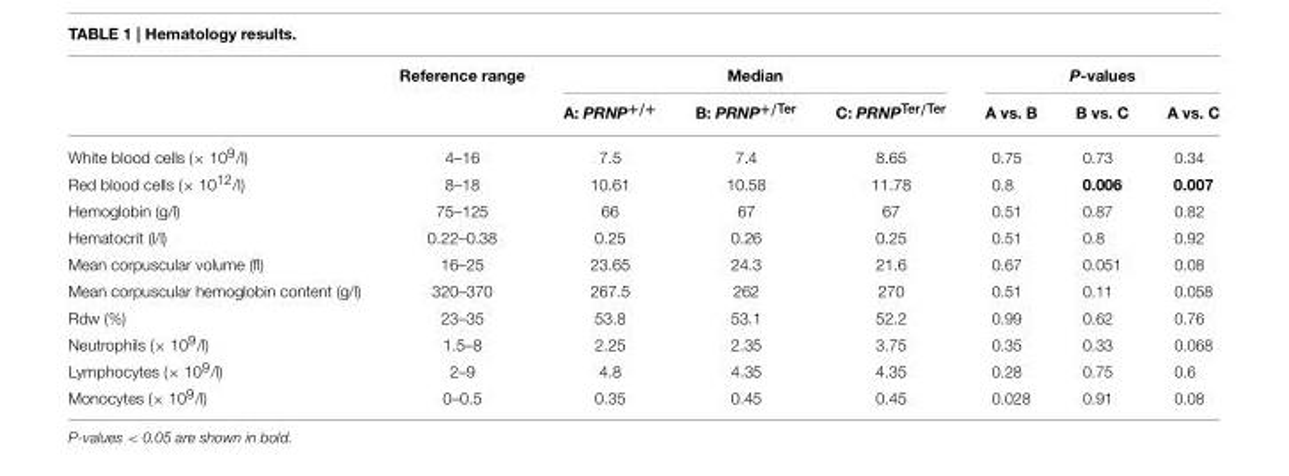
<table><thead><tr><td rowspan="2"></td><td rowspan="2">Reference range</td><td colspan="3">Median</td><td colspan="3">P-values</td></tr><tr><td>A: PRNP<sup>+/+</sup></td><td>B: PRNP<sup>+/Ter</sup></td><td>C: PRNP<sup>Ter/Ter</sup></td><td>A vs. B</td><td>B vs. C</td><td>A vs. C</td></tr></thead><tbody><tr><td>White blood cells (× 10<sup>9</sup>/l)</td><td>4–16</td><td>7.5</td><td>7.4</td><td>8.65</td><td>0.75</td><td>0.73</td><td>0.34</td></tr><tr><td>Red blood cells (× 10<sup>12</sup>/l)</td><td>8–18</td><td>10.61</td><td>10.58</td><td>11.78</td><td>0.8</td><td>0.006</td><td>0.007</td></tr><tr><td>Hemoglobin (g/l)</td><td>75–125</td><td>66</td><td>67</td><td>67</td><td>0.51</td><td>0.87</td><td>0.82</td></tr><tr><td>Hematocrit (l/l)</td><td>0.22–0.38</td><td>0.25</td><td>0.26</td><td>0.25</td><td>0.51</td><td>0.8</td><td>0.92</td></tr><tr><td>Mean corpuscular volume (fl)</td><td>16–25</td><td>23.65</td><td>24.3</td><td>21.6</td><td>0.67</td><td>0.051</td><td>0.08</td></tr><tr><td>Mean corpuscular hemoglobin content (g/l)</td><td>320–370</td><td>267.5</td><td>262</td><td>270</td><td>0.51</td><td>0.11</td><td>0.058</td></tr><tr><td>Rdw (%)</td><td>23–35</td><td>53.8</td><td>53.1</td><td>52.2</td><td>0.99</td><td>0.62</td><td>0.76</td></tr><tr><td>Neutrophils (× 10<sup>9</sup>/l)</td><td>1.5–8</td><td>2.25</td><td>2.35</td><td>3.75</td><td>0.35</td><td>0.33</td><td>0.068</td></tr><tr><td>Lymphocytes (× 10<sup>9</sup>/l)</td><td>2–9</td><td>4.8</td><td>4.35</td><td>4.35</td><td>0.28</td><td>0.75</td><td>0.6</td></tr><tr><td>Monocytes (× 10<sup>9</sup>/l)</td><td>0–0.5</td><td>0.35</td><td>0.45</td><td>0.45</td><td>0.028</td><td>0.91</td><td>0.08</td></tr></tbody></table>